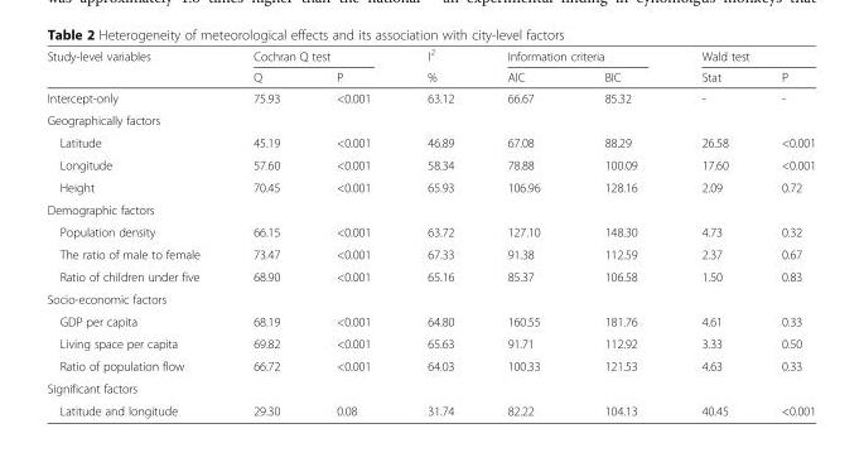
<table><thead><tr><td rowspan="2">Study-level variables</td><td colspan="2">Cochran Q test</td><td rowspan="2">I<sup>2</sup> %</td><td colspan="2">Information criteria</td><td colspan="2">Wald test</td></tr><tr><td>Q</td><td>P</td><td>AIC</td><td>BIC</td><td>Stat</td><td>P</td></tr></thead><tbody><tr><td>Intercept-only</td><td>75.93</td><td>&lt;0.001</td><td>63.12</td><td>66.67</td><td>85.32</td><td>-</td><td>-</td></tr><tr><td colspan="8">Geographically factors</td></tr><tr><td>Latitude</td><td>45.19</td><td>&lt;0.001</td><td>46.89</td><td>67.08</td><td>88.29</td><td>26.58</td><td>&lt;0.001</td></tr><tr><td>Longitude</td><td>57.60</td><td>&lt;0.001</td><td>58.34</td><td>78.88</td><td>100.09</td><td>17.60</td><td>&lt;0.001</td></tr><tr><td>Height</td><td>70.45</td><td>&lt;0.001</td><td>65.93</td><td>106.96</td><td>128.16</td><td>2.09</td><td>0.72</td></tr><tr><td colspan="8">Demographic factors</td></tr><tr><td>Population density</td><td>66.15</td><td>&lt;0.001</td><td>63.72</td><td>127.10</td><td>148.30</td><td>4.73</td><td>0.32</td></tr><tr><td>The ratio of male to female</td><td>73.47</td><td>&lt;0.001</td><td>67.33</td><td>91.38</td><td>112.59</td><td>2.37</td><td>0.67</td></tr><tr><td>Ratio of children under five</td><td>68.90</td><td>&lt;0.001</td><td>65.16</td><td>85.37</td><td>106.58</td><td>1.50</td><td>0.83</td></tr><tr><td colspan="8">Socio-economic factors</td></tr><tr><td>GDP per capita</td><td>68.19</td><td>&lt;0.001</td><td>64.80</td><td>160.55</td><td>181.76</td><td>4.61</td><td>0.33</td></tr><tr><td>Living space per capita</td><td>69.82</td><td>&lt;0.001</td><td>65.63</td><td>91.71</td><td>112.92</td><td>3.33</td><td>0.50</td></tr><tr><td>Ratio of population flow</td><td>66.72</td><td>&lt;0.001</td><td>64.03</td><td>100.33</td><td>121.53</td><td>4.63</td><td>0.33</td></tr><tr><td colspan="8">Significant factors</td></tr><tr><td>Latitude and longitude</td><td>29.30</td><td>0.08</td><td>31.74</td><td>82.22</td><td>104.13</td><td>40.45</td><td>&lt;0.001</td></tr></tbody></table>